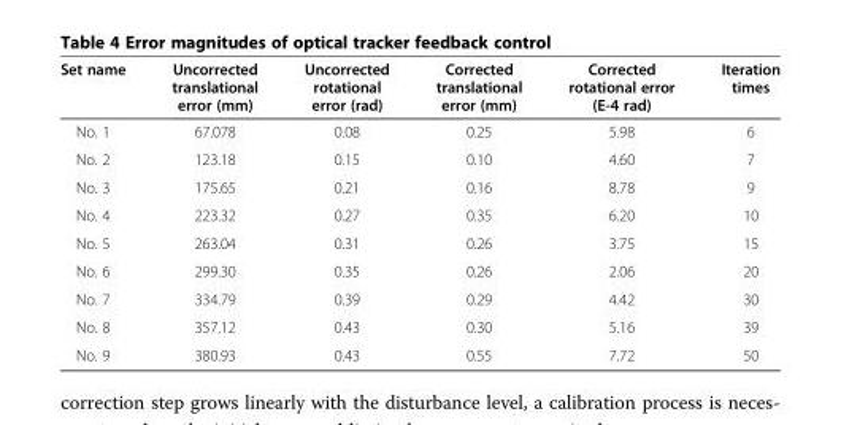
<table><thead><tr><td>Set name</td><td>Uncorrected translational error (mm)</td><td>Uncorrected rotational error (rad)</td><td>Corrected translational error (mm)</td><td>Corrected rotational error (E-4 rad)</td><td>Iteration times</td></tr></thead><tbody><tr><td>No. 1</td><td>67.078</td><td>0.08</td><td>0.25</td><td>5.98</td><td>6</td></tr><tr><td>No. 2</td><td>123.18</td><td>0.15</td><td>0.10</td><td>4.60</td><td>7</td></tr><tr><td>No. 3</td><td>175.65</td><td>0.21</td><td>0.16</td><td>8.78</td><td>9</td></tr><tr><td>No. 4</td><td>223.32</td><td>0.27</td><td>0.35</td><td>6.20</td><td>10</td></tr><tr><td>No. 5</td><td>263.04</td><td>0.31</td><td>0.26</td><td>3.75</td><td>15</td></tr><tr><td>No. 6</td><td>299.30</td><td>0.35</td><td>0.26</td><td>2.06</td><td>20</td></tr><tr><td>No. 7</td><td>334.79</td><td>0.39</td><td>0.29</td><td>4.42</td><td>30</td></tr><tr><td>No. 8</td><td>357.12</td><td>0.43</td><td>0.30</td><td>5.16</td><td>39</td></tr><tr><td>No. 9</td><td>380.93</td><td>0.43</td><td>0.55</td><td>7.72</td><td>50</td></tr></tbody></table>